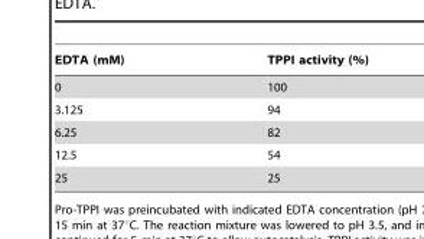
<table><thead><tr><td>EDTA (mM)</td><td>TPPI activity (%)</td></tr></thead><tbody><tr><td>0</td><td>100</td></tr><tr><td>3.125</td><td>94</td></tr><tr><td>6.25</td><td>82</td></tr><tr><td>12.5</td><td>54</td></tr><tr><td>25</td><td>25</td></tr></tbody></table>